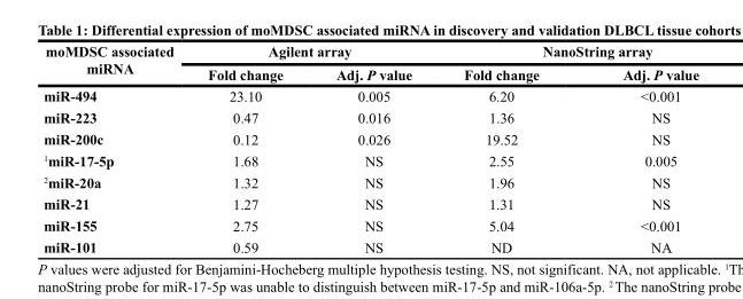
<table><thead><tr><td rowspan="2">moMDSC associated miRNA</td><td colspan="2">Agilent array</td><td colspan="2">NanoString array</td></tr><tr><td>Fold change</td><td>Adj. P value</td><td>Fold change</td><td>Adj. P value</td></tr></thead><tbody><tr><td>miR-494</td><td>23.10</td><td>0.005</td><td>6.20</td><td>&lt;0.001</td></tr><tr><td>miR-223</td><td>0.47</td><td>0.016</td><td>1.36</td><td>NS</td></tr><tr><td>miR-200c</td><td>0.12</td><td>0.026</td><td>19.52</td><td>NS</td></tr><tr><td><sup>1</sup>miR-17-5p</td><td>1.68</td><td>NS</td><td>2.55</td><td>0.005</td></tr><tr><td><sup>2</sup>miR-20a</td><td>1.32</td><td>NS</td><td>1.96</td><td>NS</td></tr><tr><td>miR-21</td><td>1.27</td><td>NS</td><td>1.31</td><td>NS</td></tr><tr><td>miR-155</td><td>2.75</td><td>NS</td><td>5.04</td><td>&lt;0.001</td></tr><tr><td>miR-101</td><td>0.59</td><td>NS</td><td>ND</td><td>NA</td></tr></tbody></table>